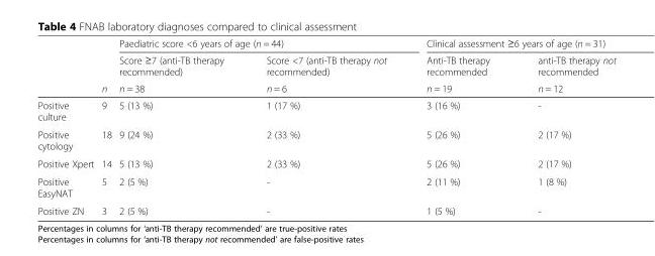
<table><thead><tr><td rowspan="3"></td><td rowspan="3">n</td><td colspan="2">Paediatric score &lt;6 years of age (n = 44)</td><td colspan="2">Clinical assessment ≥6 years of age (n = 31)</td></tr><tr><td rowspan="2">Score ≥7 (anti-TB therapy recommended) n = 38</td><td rowspan="2">Score &lt;7 (anti-TB therapy not recommended) n = 6</td><td rowspan="2">Anti-TB therapy recommended n = 19</td><td rowspan="2">anti-TB therapy not recommended n = 12</td></tr><tr></tr></thead><tbody><tr><td>Positive culture</td><td>9</td><td>5 (13 %)</td><td>1 (17 %)</td><td>3 (16 %)</td><td>-</td></tr><tr><td>Positive cytology</td><td>18</td><td>9 (24 %)</td><td>2 (33 %)</td><td>5 (26 %)</td><td>2 (17 %)</td></tr><tr><td>Positive Xpert</td><td>14</td><td>5 (13 %)</td><td>2 (33 %)</td><td>5 (26 %)</td><td>2 (17 %)</td></tr><tr><td>Positive EasyNAT</td><td>5</td><td>2 (5 %)</td><td>-</td><td>2 (11 %)</td><td>1 (8 %)</td></tr><tr><td>Positive ZN</td><td>3</td><td>2 (5 %)</td><td>-</td><td>1 (5 %)</td><td>-</td></tr></tbody></table>